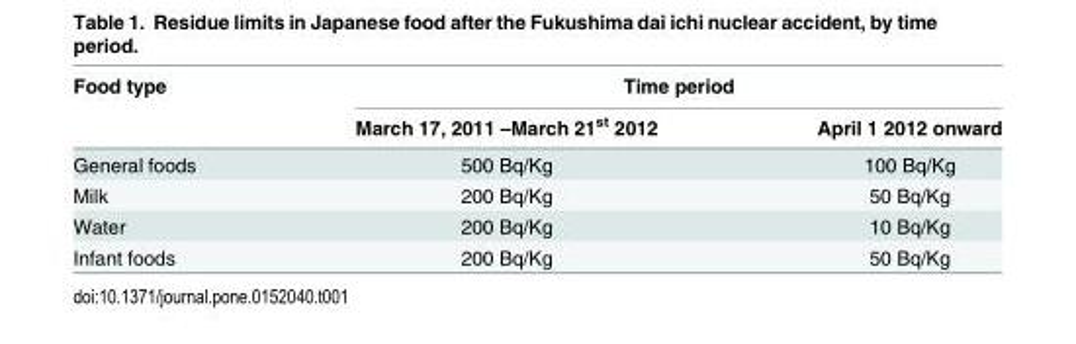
<table><thead><tr><td rowspan="2">Food type</td><td colspan="2">Time period</td></tr><tr><td>March 17, 2011 –March 21<sup>st</sup> 2012</td><td>April 1 2012 onward</td></tr></thead><tbody><tr><td>General foods</td><td>500 Bq/Kg</td><td>100 Bq/Kg</td></tr><tr><td>Milk</td><td>200 Bq/Kg</td><td>50 Bq/Kg</td></tr><tr><td>Water</td><td>200 Bq/Kg</td><td>10 Bq/Kg</td></tr><tr><td>Infant foods</td><td>200 Bq/Kg</td><td>50 Bq/Kg</td></tr></tbody></table>